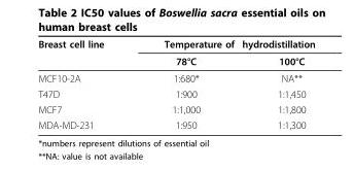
<table><thead><tr><td rowspan="2">Breast cell line</td><td rowspan="2">Temperature of 78°C</td><td rowspan="2">hydrodistillation 100°C</td></tr><tr></tr></thead><tbody><tr><td>MCF10-2A</td><td>1:680*</td><td>NA**</td></tr><tr><td>T47D</td><td>1:900</td><td>1:1,450</td></tr><tr><td>MCF7</td><td>1:1,000</td><td>1:1,800</td></tr><tr><td>MDA-MD-231</td><td>1:950</td><td>1:1,300</td></tr></tbody></table>